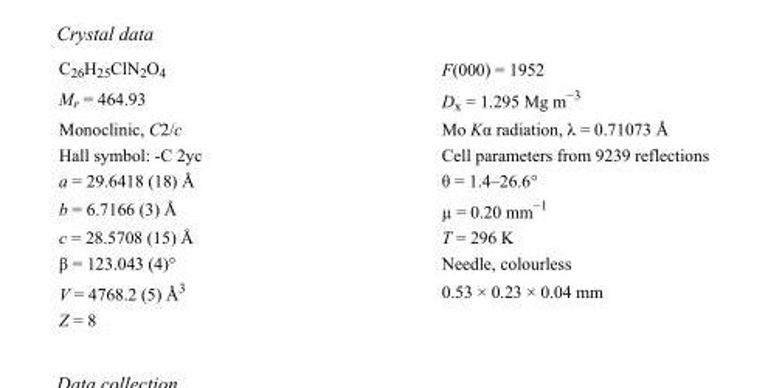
<table><tbody><tr><td>C<sub>26</sub>H<sub>25</sub>ClN<sub>2</sub>O<sub>4</sub></td><td>F(000) = 1952</td></tr><tr><td>M<sub>r</sub> = 464.93</td><td>D<sub>x</sub> = 1.295 Mg m<sup>−3</sup></td></tr><tr><td>Monoclinic, C2/c</td><td>Mo Kα radiation, λ = 0.71073 Å</td></tr><tr><td>Hall symbol: -C 2yc</td><td>Cell parameters from 9239 reflections</td></tr><tr><td>a = 29.6418 (18) Å</td><td>θ = 1.4–26.6°</td></tr><tr><td>b = 6.7166 (3) Å</td><td>µ = 0.20 mm<sup>−1</sup></td></tr><tr><td>c = 28.5708 (15) Å</td><td>T = 296 K</td></tr><tr><td>β = 123.043 (4)°</td><td>Needle, colourless</td></tr><tr><td>V = 4768.2 (5) Å<sup>3</sup></td><td>0.53 × 0.23 × 0.04 mm</td></tr><tr><td>Z = 8</td><td></td></tr></tbody></table>